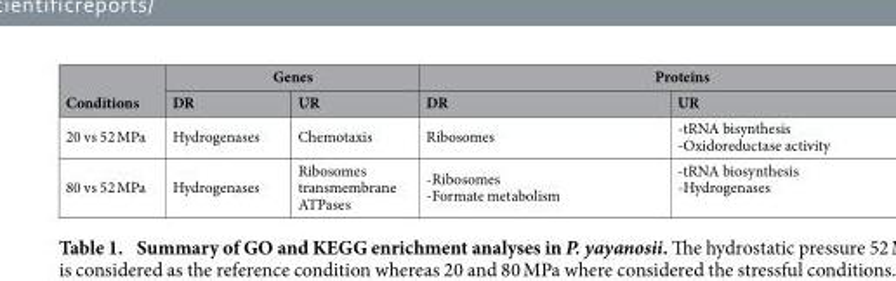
<table><thead><tr><td rowspan="2">Conditions</td><td colspan="2">Genes</td><td colspan="2">Proteins</td></tr><tr><td>DR</td><td>UR</td><td>DR</td><td>UR</td></tr></thead><tbody><tr><td>20 vs 52 MPa</td><td>Hydrogenases</td><td>Chemotaxis</td><td>Ribosomes</td><td>-tRNA bisynthesis -Oxidoreductase activity</td></tr><tr><td>80 vs 52 MPa</td><td>Hydrogenases</td><td>Ribosomes transmembrane ATPases</td><td>-Ribosomes -Formate metabolism</td><td>-tRNA biosynthesis -Hydrogenases</td></tr></tbody></table>